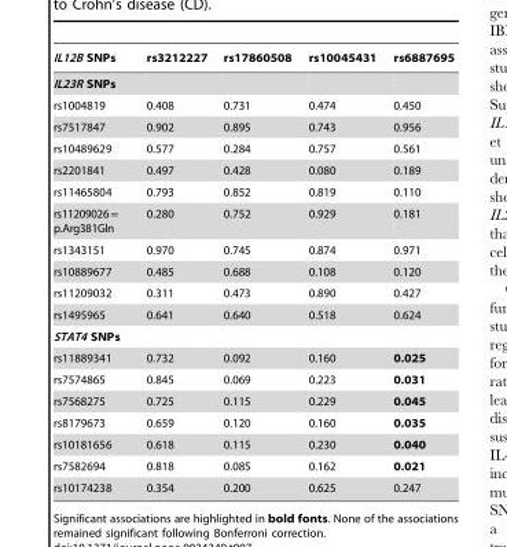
<table><thead><tr><td>IL12B SNPs</td><td>rs3212227</td><td>rs17860508</td><td>rs10045431</td><td>rs6887695</td></tr></thead><tbody><tr><td colspan="5">IL23R SNPs</td></tr><tr><td>rs1004819</td><td>0.408</td><td>0.731</td><td>0.474</td><td>0.450</td></tr><tr><td>rs7517847</td><td>0.902</td><td>0.895</td><td>0.743</td><td>0.956</td></tr><tr><td>rs10489629</td><td>0.577</td><td>0.284</td><td>0.757</td><td>0.561</td></tr><tr><td>rs2201841</td><td>0.497</td><td>0.428</td><td>0.080</td><td>0.189</td></tr><tr><td>rs11465804</td><td>0.793</td><td>0.852</td><td>0.819</td><td>0.110</td></tr><tr><td>rs11209026= p.Arg381Gln</td><td>0.280</td><td>0.752</td><td>0.929</td><td>0.181</td></tr><tr><td>rs1343151</td><td>0.970</td><td>0.745</td><td>0.874</td><td>0.971</td></tr><tr><td>rs10889677</td><td>0.485</td><td>0.688</td><td>0.108</td><td>0.120</td></tr><tr><td>rs11209032</td><td>0.311</td><td>0.473</td><td>0.890</td><td>0.427</td></tr><tr><td>rs1495965</td><td>0.641</td><td>0.640</td><td>0.518</td><td>0.624</td></tr><tr><td colspan="5">STAT4 SNPs</td></tr><tr><td>rs11889341</td><td>0.732</td><td>0.092</td><td>0.160</td><td>0.025</td></tr><tr><td>rs7574865</td><td>0.845</td><td>0.069</td><td>0.223</td><td>0.031</td></tr><tr><td>rs7568275</td><td>0.725</td><td>0.115</td><td>0.229</td><td>0.045</td></tr><tr><td>rs8179673</td><td>0.659</td><td>0.120</td><td>0.160</td><td>0.035</td></tr><tr><td>rs10181656</td><td>0.618</td><td>0.115</td><td>0.230</td><td>0.040</td></tr><tr><td>rs7582694</td><td>0.818</td><td>0.085</td><td>0.162</td><td>0.021</td></tr><tr><td>rs10174238</td><td>0.354</td><td>0.200</td><td>0.625</td><td>0.247</td></tr></tbody></table>